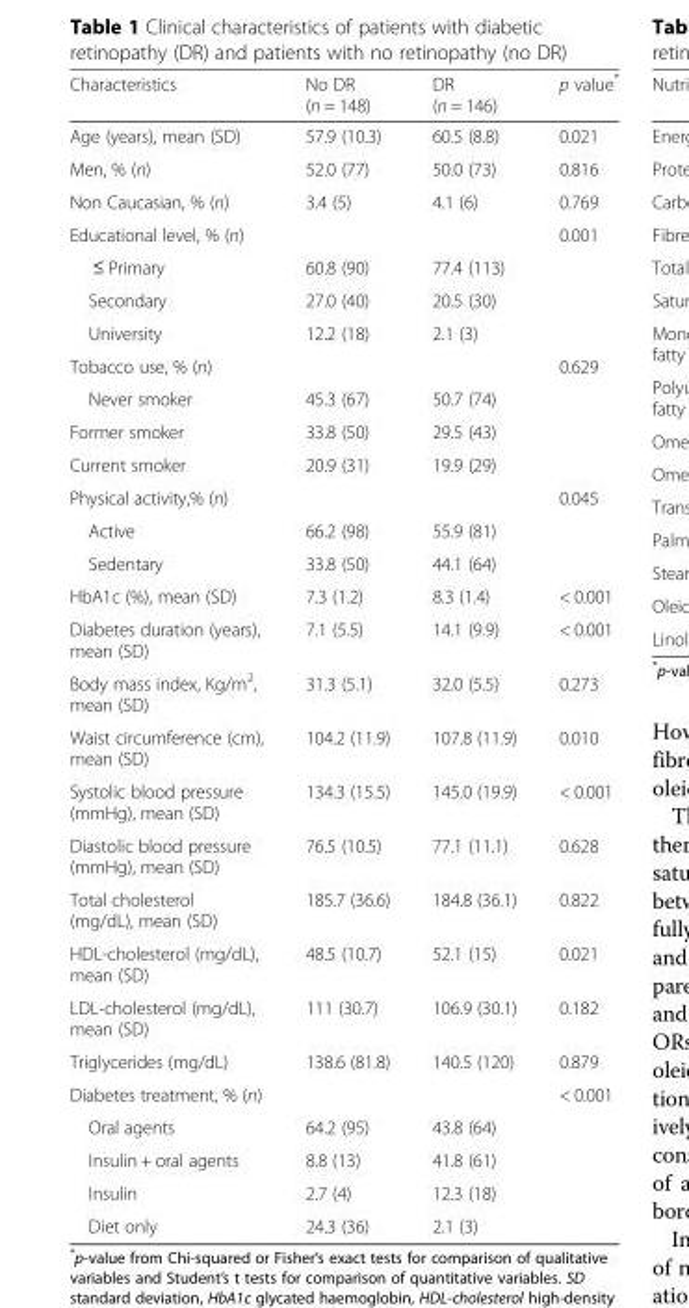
<table><thead><tr><td>Characteristics</td><td>No DR (n = 148)</td><td>DR (n = 146)</td><td>p value*</td></tr></thead><tbody><tr><td>Age (years), mean (SD)</td><td>57.9 (10.3)</td><td>60.5 (8.8)</td><td>0.021</td></tr><tr><td>Men, % (n)</td><td>52.0 (77)</td><td>50.0 (73)</td><td>0.816</td></tr><tr><td>Non Caucasian, % (n)</td><td>3.4 (5)</td><td>4.1 (6)</td><td>0.769</td></tr><tr><td>Educational level, % (n)</td><td></td><td></td><td>0.001</td></tr><tr><td>≤ Primary</td><td>60.8 (90)</td><td>77.4 (113)</td><td></td></tr><tr><td>Secondary</td><td>27.0 (40)</td><td>20.5 (30)</td><td></td></tr><tr><td>University</td><td>12.2 (18)</td><td>2.1 (3)</td><td></td></tr><tr><td>Tobacco use, % (n)</td><td></td><td></td><td>0.629</td></tr><tr><td>Never smoker</td><td>45.3 (67)</td><td>50.7 (74)</td><td></td></tr><tr><td>Former smoker</td><td>33.8 (50)</td><td>29.5 (43)</td><td></td></tr><tr><td>Current smoker</td><td>20.9 (31)</td><td>19.9 (29)</td><td></td></tr><tr><td>Physical activity,% (n)</td><td></td><td></td><td>0.045</td></tr><tr><td>Active</td><td>66.2 (98)</td><td>55.9 (81)</td><td></td></tr><tr><td>Sedentary</td><td>33.8 (50)</td><td>44.1 (64)</td><td></td></tr><tr><td>HbA1c (%), mean (SD)</td><td>7.3 (1.2)</td><td>8.3 (1.4)</td><td>&lt; 0.001</td></tr><tr><td>Diabetes duration (years), mean (SD)</td><td>7.1 (5.5)</td><td>14.1 (9.9)</td><td>&lt; 0.001</td></tr><tr><td>Body mass index, Kg/m<sup>2</sup>, mean (SD)</td><td>31.3 (5.1)</td><td>32.0 (5.5)</td><td>0.273</td></tr><tr><td>Waist circumference (cm), mean (SD)</td><td>104.2 (11.9)</td><td>107.8 (11.9)</td><td>0.010</td></tr><tr><td>Systolic blood pressure (mmHg), mean (SD)</td><td>134.3 (15.5)</td><td>145.0 (19.9)</td><td>&lt; 0.001</td></tr><tr><td>Diastolic blood pressure (mmHg), mean (SD)</td><td>76.5 (10.5)</td><td>77.1 (11.1)</td><td>0.628</td></tr><tr><td>Total cholesterol (mg/dL), mean (SD)</td><td>185.7 (36.6)</td><td>184.8 (36.1)</td><td>0.822</td></tr><tr><td>HDL-cholesterol (mg/dL), mean (SD)</td><td>48.5 (10.7)</td><td>52.1 (15)</td><td>0.021</td></tr><tr><td>LDL-cholesterol (mg/dL), mean (SD)</td><td>111 (30.7)</td><td>106.9 (30.1)</td><td>0.182</td></tr><tr><td>Triglycerides (mg/dL)</td><td>138.6 (81.8)</td><td>140.5 (120)</td><td>0.879</td></tr><tr><td>Diabetes treatment, % (n)</td><td></td><td></td><td>&lt; 0.001</td></tr><tr><td>Oral agents</td><td>64.2 (95)</td><td>43.8 (64)</td><td></td></tr><tr><td>Insulin + oral agents</td><td>8.8 (13)</td><td>41.8 (61)</td><td></td></tr><tr><td>Insulin</td><td>2.7 (4)</td><td>12.3 (18)</td><td></td></tr><tr><td>Diet only</td><td>24.3 (36)</td><td>2.1 (3)</td><td></td></tr></tbody></table>